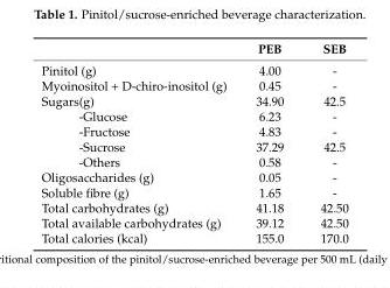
<table><thead><tr><td></td><td>PEB</td><td>SEB</td></tr></thead><tbody><tr><td>Pinitol (g)</td><td>4.00</td><td>-</td></tr><tr><td>Myoinositol + D-chiro-inositol (g)</td><td>0.45</td><td>-</td></tr><tr><td>Sugars(g)</td><td>34.90</td><td>42.5</td></tr><tr><td>-Glucose</td><td>6.23</td><td>-</td></tr><tr><td>-Fructose</td><td>4.83</td><td>-</td></tr><tr><td>-Sucrose</td><td>37.29</td><td>42.5</td></tr><tr><td>-Others</td><td>0.58</td><td>-</td></tr><tr><td>Oligosaccharides (g)</td><td>0.05</td><td>-</td></tr><tr><td>Soluble fibre (g)</td><td>1.65</td><td>-</td></tr><tr><td>Total carbohydrates (g)</td><td>41.18</td><td>42.50</td></tr><tr><td>Total available carbohydrates (g)</td><td>39.12</td><td>42.50</td></tr><tr><td>Total calories (kcal)</td><td>155.0</td><td>170.0</td></tr></tbody></table>